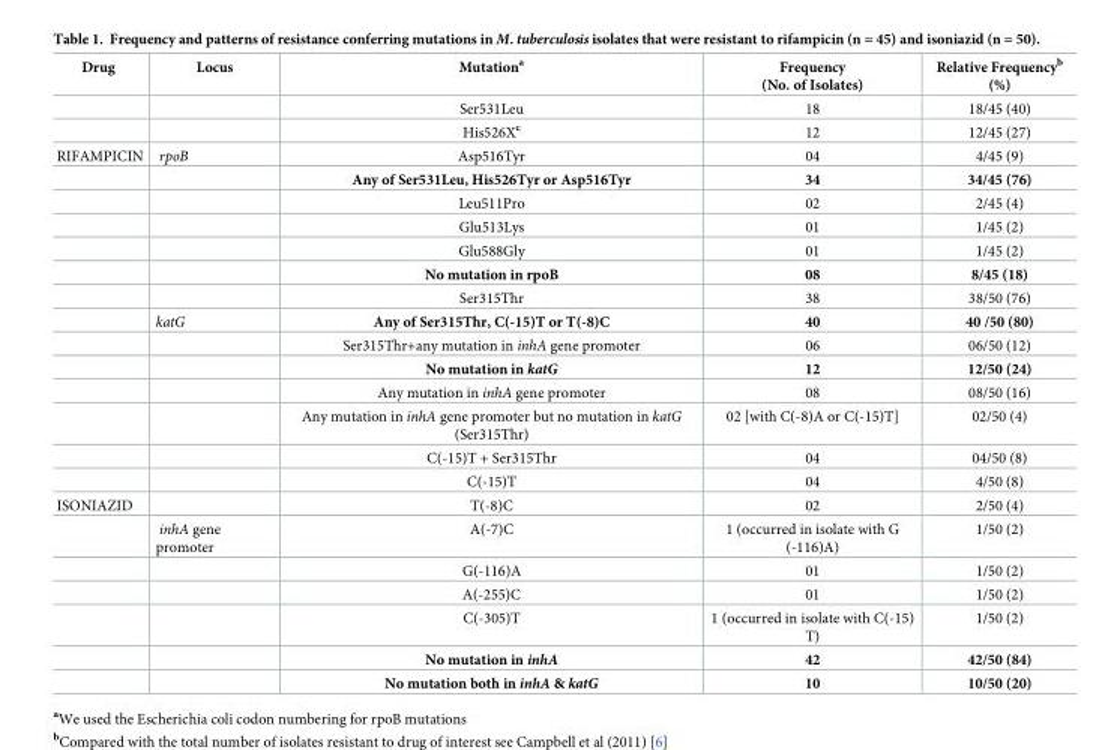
<table><thead><tr><td>Drug</td><td>Locus</td><td>Mutation<sup>a</sup></td><td>Frequency (No. of Isolates)</td><td>Relative Frequency<sup>b</sup> (%)</td></tr></thead><tbody><tr><td></td><td></td><td>Ser531Leu</td><td>18</td><td>18/45 (40)</td></tr><tr><td></td><td></td><td>His526X<sup>c</sup></td><td>12</td><td>12/45 (27)</td></tr><tr><td rowspan="14">RIFAMPICIN</td><td>rpoB</td><td>Asp516Tyr</td><td>04</td><td>4/45 (9)</td></tr><tr><td></td><td>Any of Ser531Leu, His526Tyr or Asp516Tyr</td><td>34</td><td>34/45 (76)</td></tr><tr><td></td><td>Leu511Pro</td><td>02</td><td>2/45 (4)</td></tr><tr><td></td><td>Glu513Lys</td><td>01</td><td>1/45 (2)</td></tr><tr><td></td><td>Glu588Gly</td><td>01</td><td>1/45 (2)</td></tr><tr><td></td><td>No mutation in rpoB</td><td>08</td><td>8/45 (18)</td></tr><tr><td></td><td>Ser315Thr</td><td>38</td><td>38/50 (76)</td></tr><tr><td>katG</td><td>Any of Ser315Thr, C(-15)T or T(-8)C</td><td>40</td><td>40 /50 (80)</td></tr><tr><td></td><td>Ser315Thr+any mutation in inhA gene promoter</td><td>06</td><td>06/50 (12)</td></tr><tr><td></td><td>No mutation in katG</td><td>12</td><td>12/50 (24)</td></tr><tr><td></td><td>Any mutation in inhA gene promoter</td><td>08</td><td>08/50 (16)</td></tr><tr><td></td><td>Any mutation in inhA gene promoter but no mutation in katG (Ser315Thr)</td><td>02 [with C(-8)A or C(-15)T]</td><td>02/50 (4)</td></tr><tr><td></td><td>C(-15)T + Ser315Thr</td><td>04</td><td>04/50 (8)</td></tr><tr><td></td><td>C(-15)T</td><td>04</td><td>4/50 (8)</td></tr><tr><td rowspan="7">ISONIAZID</td><td></td><td>T(-8)C</td><td>02</td><td>2/50 (4)</td></tr><tr><td>inhA gene promoter</td><td>A(-7)C</td><td>1 (occurred in isolate with G (-116)A)</td><td>1/50 (2)</td></tr><tr><td></td><td>G(-116)A</td><td>01</td><td>1/50 (2)</td></tr><tr><td></td><td>A(-255)C</td><td>01</td><td>1/50 (2)</td></tr><tr><td></td><td>C(-305)T</td><td>1 (occurred in isolate with C(-15) T)</td><td>1/50 (2)</td></tr><tr><td></td><td>No mutation in inhA</td><td>42</td><td>42/50 (84)</td></tr><tr><td></td><td>No mutation both in inhA &amp; katG</td><td>10</td><td>10/50 (20)</td></tr></tbody></table>